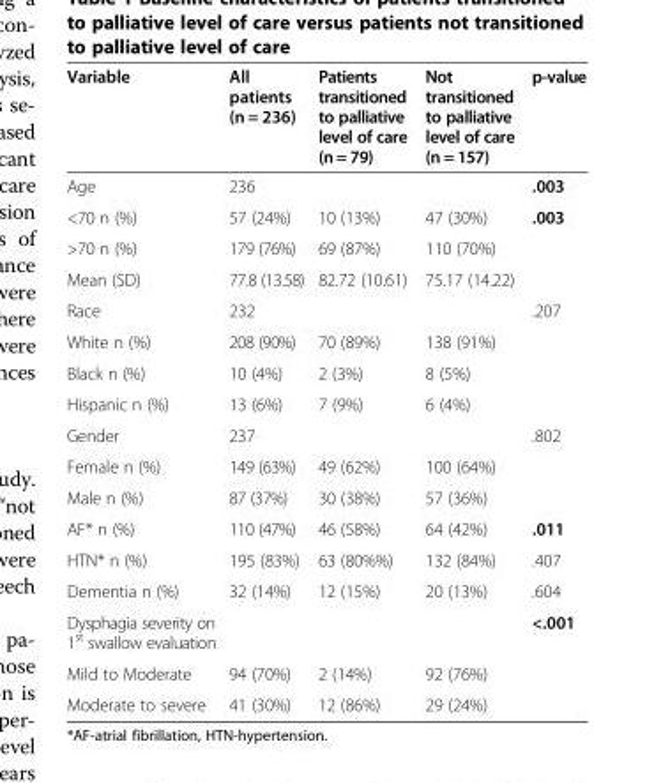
<table><thead><tr><td>Variable</td><td>All patients (n = 236)</td><td>Patients transitioned to palliative level of care (n = 79)</td><td>Not transitioned to palliative level of care (n = 157)</td><td>p-value</td></tr></thead><tbody><tr><td>Age</td><td>236</td><td></td><td></td><td>.003</td></tr><tr><td>&lt;70 n (%)</td><td>57 (24%)</td><td>10 (13%)</td><td>47 (30%)</td><td>.003</td></tr><tr><td>&gt;70 n (%)</td><td>179 (76%)</td><td>69 (87%)</td><td>110 (70%)</td><td></td></tr><tr><td>Mean (SD)</td><td>77.8 (13.58)</td><td>82.72 (10.61)</td><td>75.17 (14.22)</td><td></td></tr><tr><td>Race</td><td>232</td><td></td><td></td><td>.207</td></tr><tr><td>White n (%)</td><td>208 (90%)</td><td>70 (89%)</td><td>138 (91%)</td><td></td></tr><tr><td>Black n (%)</td><td>10 (4%)</td><td>2 (3%)</td><td>8 (5%)</td><td></td></tr><tr><td>Hispanic n (%)</td><td>13 (6%)</td><td>7 (9%)</td><td>6 (4%)</td><td></td></tr><tr><td>Gender</td><td>237</td><td></td><td></td><td>.802</td></tr><tr><td>Female n (%)</td><td>149 (63%)</td><td>49 (62%)</td><td>100 (64%)</td><td></td></tr><tr><td>Male n (%)</td><td>87 (37%)</td><td>30 (38%)</td><td>57 (36%)</td><td></td></tr><tr><td>AF* n (%)</td><td>110 (47%)</td><td>46 (58%)</td><td>64 (42%)</td><td>.011</td></tr><tr><td>HTN* n (%)</td><td>195 (83%)</td><td>63 (80%%)</td><td>132 (84%)</td><td>.407</td></tr><tr><td>Dementia n (%)</td><td>32 (14%)</td><td>12 (15%)</td><td>20 (13%)</td><td>.604</td></tr><tr><td>Dysphagia severity on 1<sup>st</sup> swallow evaluation</td><td></td><td></td><td></td><td>&lt;.001</td></tr><tr><td>Mild to Moderate</td><td>94 (70%)</td><td>2 (14%)</td><td>92 (76%)</td><td></td></tr><tr><td>Moderate to severe</td><td>41 (30%)</td><td>12 (86%)</td><td>29 (24%)</td><td></td></tr></tbody></table>